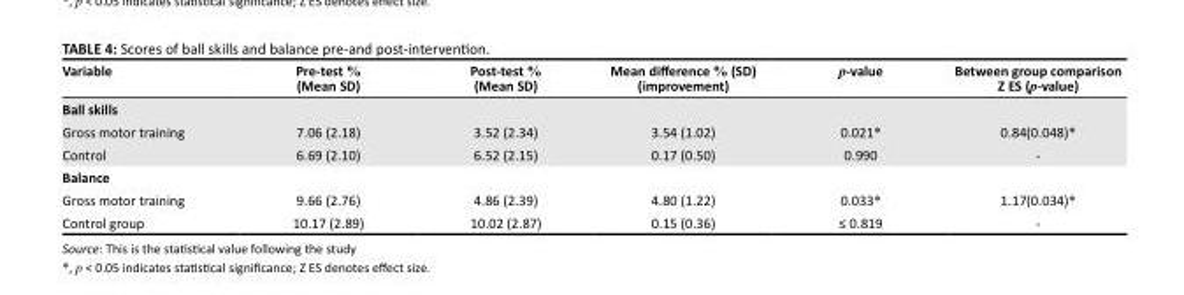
<table><thead><tr><td>Variable</td><td>Pre-test % (Mean SD)</td><td>Post-test % (Mean SD)</td><td>Mean difference % (SD) (improvement)</td><td>p-value</td><td>Between group comparison Z ES (p-value)</td></tr></thead><tbody><tr><td colspan="6">Ball skills</td></tr><tr><td>Gross motor training</td><td>7.06 (2.18)</td><td>3.52 (2.34)</td><td>3.54 (1.02)</td><td>0.021*</td><td>0.84(0.048)*</td></tr><tr><td>Control</td><td>6.69 (2.10)</td><td>6.52 (2.15)</td><td>0.17 (0.50)</td><td>0.990</td><td>-</td></tr><tr><td colspan="6">Balance</td></tr><tr><td>Gross motor training</td><td>9.66 (2.76)</td><td>4.86 (2.39)</td><td>4.80 (1.22)</td><td>0.033*</td><td>1.17(0.034)*</td></tr><tr><td>Control group</td><td>10.17 (2.89)</td><td>10.02 (2.87)</td><td>0.15 (0.36)</td><td>≤ 0.819</td><td>-</td></tr></tbody></table>